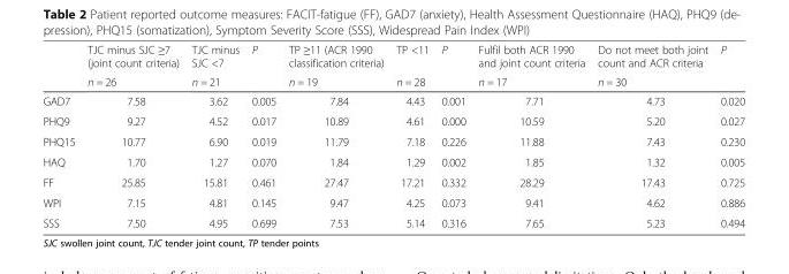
<table><thead><tr><td rowspan="2"></td><td rowspan="2">TJC minus SJC ≥7 (joint count criteria) n = 26</td><td rowspan="2">TJC minus SJC &lt;7 n = 21</td><td rowspan="2">P</td><td rowspan="2">TP ≥11 (ACR 1990 classification criteria) n = 19</td><td rowspan="2">TP &lt;11 n = 28</td><td rowspan="2">P</td><td rowspan="2">Fulfil both ACR 1990 and joint count criteria n = 17</td><td rowspan="2">Do not meet both joint count and ACR criteria n = 30</td><td rowspan="2">P</td></tr><tr></tr></thead><tbody><tr><td>GAD7</td><td>7.58</td><td>3.62</td><td>0.005</td><td>7.84</td><td>4.43</td><td>0.001</td><td>7.71</td><td>4.73</td><td>0.020</td></tr><tr><td>PHQ9</td><td>9.27</td><td>4.52</td><td>0.017</td><td>10.89</td><td>4.61</td><td>0.000</td><td>10.59</td><td>5.20</td><td>0.027</td></tr><tr><td>PHQ15</td><td>10.77</td><td>6.90</td><td>0.019</td><td>11.79</td><td>7.18</td><td>0.226</td><td>11.88</td><td>7.43</td><td>0.230</td></tr><tr><td>HAQ</td><td>1.70</td><td>1.27</td><td>0.070</td><td>1.84</td><td>1.29</td><td>0.002</td><td>1.85</td><td>1.32</td><td>0.005</td></tr><tr><td>FF</td><td>25.85</td><td>15.81</td><td>0.461</td><td>27.47</td><td>17.21</td><td>0.332</td><td>28.29</td><td>17.43</td><td>0.725</td></tr><tr><td>WPI</td><td>7.15</td><td>4.81</td><td>0.145</td><td>9.47</td><td>4.25</td><td>0.073</td><td>9.41</td><td>4.62</td><td>0.886</td></tr><tr><td>SSS</td><td>7.50</td><td>4.95</td><td>0.699</td><td>7.53</td><td>5.14</td><td>0.316</td><td>7.65</td><td>5.23</td><td>0.494</td></tr></tbody></table>